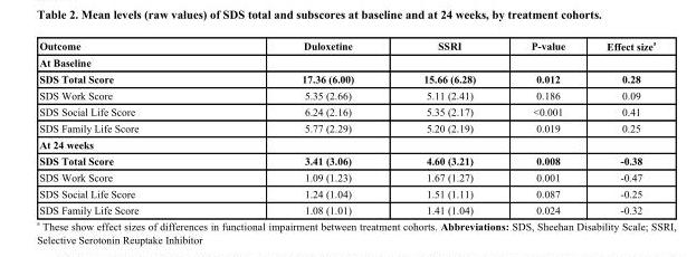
<table><thead><tr><td>Outcome</td><td>Duloxetine</td><td>SSRI</td><td>P-value</td><td>Effect size <sup>a</sup></td></tr></thead><tbody><tr><td colspan="5">At Baseline</td></tr><tr><td>SDS Total Score</td><td>17.36 (6.00)</td><td>15.66 (6.28)</td><td>0.012</td><td>0.28</td></tr><tr><td>SDS Work Score</td><td>5.35 (2.66)</td><td>5.11 (2.41)</td><td>0.186</td><td>0.09</td></tr><tr><td>SDS Social Life Score</td><td>6.24 (2.16)</td><td>5.35 (2.17)</td><td>&lt;0.001</td><td>0.41</td></tr><tr><td>SDS Family Life Score</td><td>5.77 (2.29)</td><td>5.20 (2.19)</td><td>0.019</td><td>0.25</td></tr><tr><td colspan="5">At 24 weeks</td></tr><tr><td>SDS Total Score</td><td>3.41 (3.06)</td><td>4.60 (3.21)</td><td>0.008</td><td>-0.38</td></tr><tr><td>SDS Work Score</td><td>1.09 (1.23)</td><td>1.67 (1.27)</td><td>0.001</td><td>-0.47</td></tr><tr><td>SDS Social Life Score</td><td>1.24 (1.04)</td><td>1.51 (1.11)</td><td>0.087</td><td>-0.25</td></tr><tr><td>SDS Family Life Score</td><td>1.08 (1.01)</td><td>1.41 (1.04)</td><td>0.024</td><td>-0.32</td></tr></tbody></table>